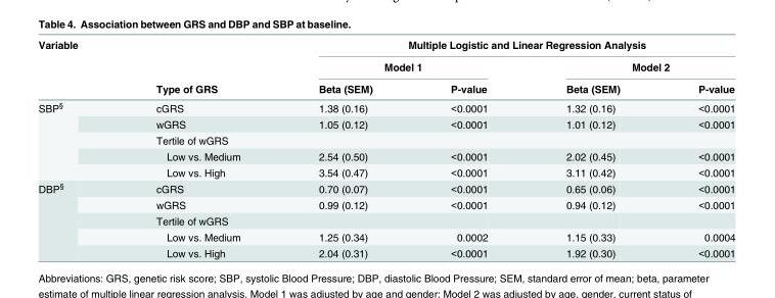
<table><thead><tr><td rowspan="3">Variable</td><td rowspan="3">Type of GRS</td><td colspan="4">Multiple Logistic and Linear Regression Analysis</td></tr><tr><td colspan="2">Model 1</td><td colspan="2">Model 2</td></tr><tr><td>Beta (SEM)</td><td>P-value</td><td>Beta (SEM)</td><td>P-value</td></tr></thead><tbody><tr><td rowspan="5">SBP<sup>§</sup></td><td>cGRS</td><td>1.38 (0.16)</td><td>&lt;0.0001</td><td>1.32 (0.16)</td><td>&lt;0.0001</td></tr><tr><td>wGRS</td><td>1.05 (0.12)</td><td>&lt;0.0001</td><td>1.01 (0.12)</td><td>&lt;0.0001</td></tr><tr><td>Tertile of wGRS</td><td></td><td></td><td></td><td></td></tr><tr><td>Low vs. Medium</td><td>2.54 (0.50)</td><td>&lt;0.0001</td><td>2.02 (0.45)</td><td>&lt;0.0001</td></tr><tr><td>Low vs. High</td><td>3.54 (0.47)</td><td>&lt;0.0001</td><td>3.11 (0.42)</td><td>&lt;0.0001</td></tr><tr><td rowspan="5">DBP<sup>§</sup></td><td>cGRS</td><td>0.70 (0.07)</td><td>&lt;0.0001</td><td>0.65 (0.06)</td><td>&lt;0.0001</td></tr><tr><td>wGRS</td><td>0.99 (0.12)</td><td>&lt;0.0001</td><td>0.94 (0.12)</td><td>&lt;0.0001</td></tr><tr><td>Tertile of wGRS</td><td></td><td></td><td></td><td></td></tr><tr><td>Low vs. Medium</td><td>1.25 (0.34)</td><td>0.0002</td><td>1.15 (0.33)</td><td>0.0004</td></tr><tr><td>Low vs. High</td><td>2.04 (0.31)</td><td>&lt;0.0001</td><td>1.92 (0.30)</td><td>&lt;0.0001</td></tr></tbody></table>